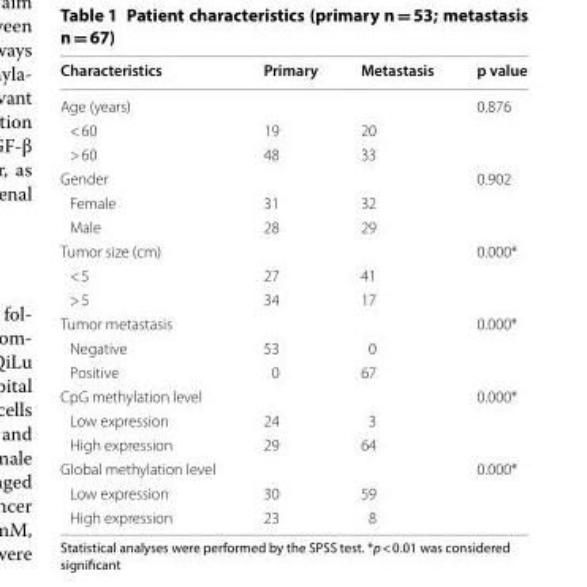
<table><thead><tr><td>Characteristics</td><td>Primary</td><td>Metastasis</td><td>p value</td></tr></thead><tbody><tr><td>Age (years)</td><td></td><td></td><td>0.876</td></tr><tr><td>&lt; 60</td><td>19</td><td>20</td><td></td></tr><tr><td>&gt; 60</td><td>48</td><td>33</td><td></td></tr><tr><td colspan="3">Gender</td><td>0.902</td></tr><tr><td>Female</td><td>31</td><td>32</td><td></td></tr><tr><td>Male</td><td>28</td><td>29</td><td></td></tr><tr><td colspan="3">Tumor size (cm)</td><td>0.000*</td></tr><tr><td>&lt; 5</td><td>27</td><td>41</td><td></td></tr><tr><td>&gt; 5</td><td>34</td><td>17</td><td></td></tr><tr><td colspan="3">Tumor metastasis</td><td>0.000*</td></tr><tr><td>Negative</td><td>53</td><td>0</td><td></td></tr><tr><td>Positive</td><td>0</td><td>67</td><td></td></tr><tr><td colspan="3">CpG methylation level</td><td>0.000*</td></tr><tr><td>Low expression</td><td>24</td><td>3</td><td></td></tr><tr><td>High expression</td><td>29</td><td>64</td><td></td></tr><tr><td colspan="3">Global methylation level</td><td>0.000*</td></tr><tr><td>Low expression</td><td>30</td><td>59</td><td></td></tr><tr><td>High expression</td><td>23</td><td>8</td><td></td></tr></tbody></table>